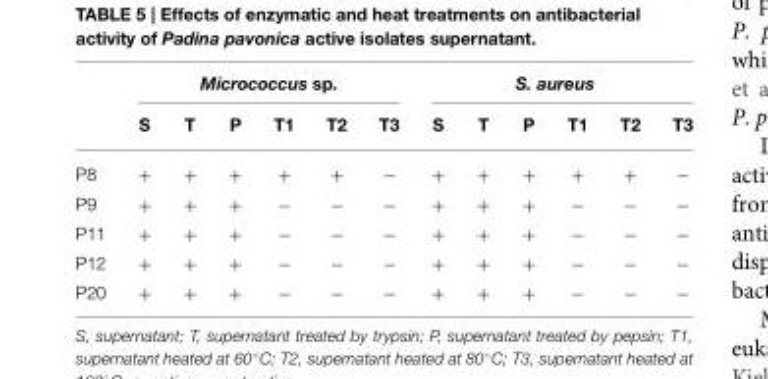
<table><thead><tr><td rowspan="2"></td><td colspan="6">Micrococcus sp.</td><td colspan="6">S. aureus</td></tr><tr><td>S</td><td>T</td><td>P</td><td>T1</td><td>T2</td><td>T3</td><td>S</td><td>T</td><td>P</td><td>T1</td><td>T2</td><td>T3</td></tr></thead><tbody><tr><td>P8</td><td>+</td><td>+</td><td>+</td><td>+</td><td>+</td><td>−</td><td>+</td><td>+</td><td>+</td><td>+</td><td>+</td><td>−</td></tr><tr><td>P9</td><td>+</td><td>+</td><td>+</td><td>−</td><td>−</td><td>−</td><td>+</td><td>+</td><td>+</td><td>−</td><td>−</td><td>−</td></tr><tr><td>P11</td><td>+</td><td>+</td><td>+</td><td>−</td><td>−</td><td>−</td><td>+</td><td>+</td><td>+</td><td>−</td><td>−</td><td>−</td></tr><tr><td>P12</td><td>+</td><td>+</td><td>+</td><td>−</td><td>−</td><td>−</td><td>+</td><td>+</td><td>+</td><td>−</td><td>−</td><td>−</td></tr><tr><td>P20</td><td>+</td><td>+</td><td>+</td><td>−</td><td>−</td><td>−</td><td>+</td><td>+</td><td>+</td><td>−</td><td>−</td><td>−</td></tr></tbody></table>